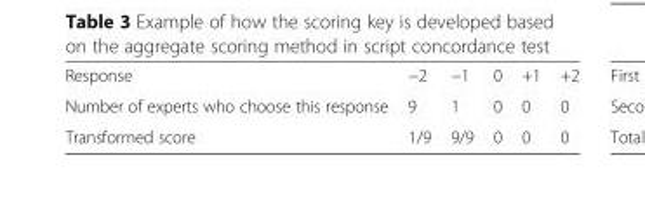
<table><tbody><tr><td>Response</td><td>−2</td><td>−1</td><td>0</td><td>+1</td><td>+2</td></tr><tr><td>Number of experts who choose this response</td><td>9</td><td>1</td><td>0</td><td>0</td><td>0</td></tr><tr><td>Transformed score</td><td>1/9</td><td>9/9</td><td>0</td><td>0</td><td>0</td></tr></tbody></table>